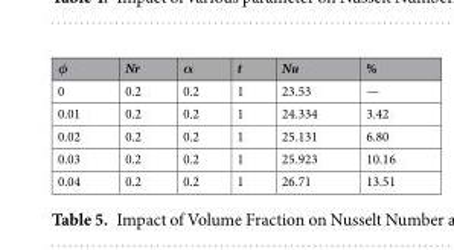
<table><thead><tr><td>φ</td><td>Nr</td><td>α</td><td>t</td><td>Nu</td><td>%</td></tr></thead><tbody><tr><td>0</td><td>0.2</td><td>0.2</td><td>1</td><td>23.53</td><td>—</td></tr><tr><td>0.01</td><td>0.2</td><td>0.2</td><td>1</td><td>24.334</td><td>3.42</td></tr><tr><td>0.02</td><td>0.2</td><td>0.2</td><td>1</td><td>25.131</td><td>6.80</td></tr><tr><td>0.03</td><td>0.2</td><td>0.2</td><td>1</td><td>25.923</td><td>10.16</td></tr><tr><td>0.04</td><td>0.2</td><td>0.2</td><td>1</td><td>26.71</td><td>13.51</td></tr></tbody></table>